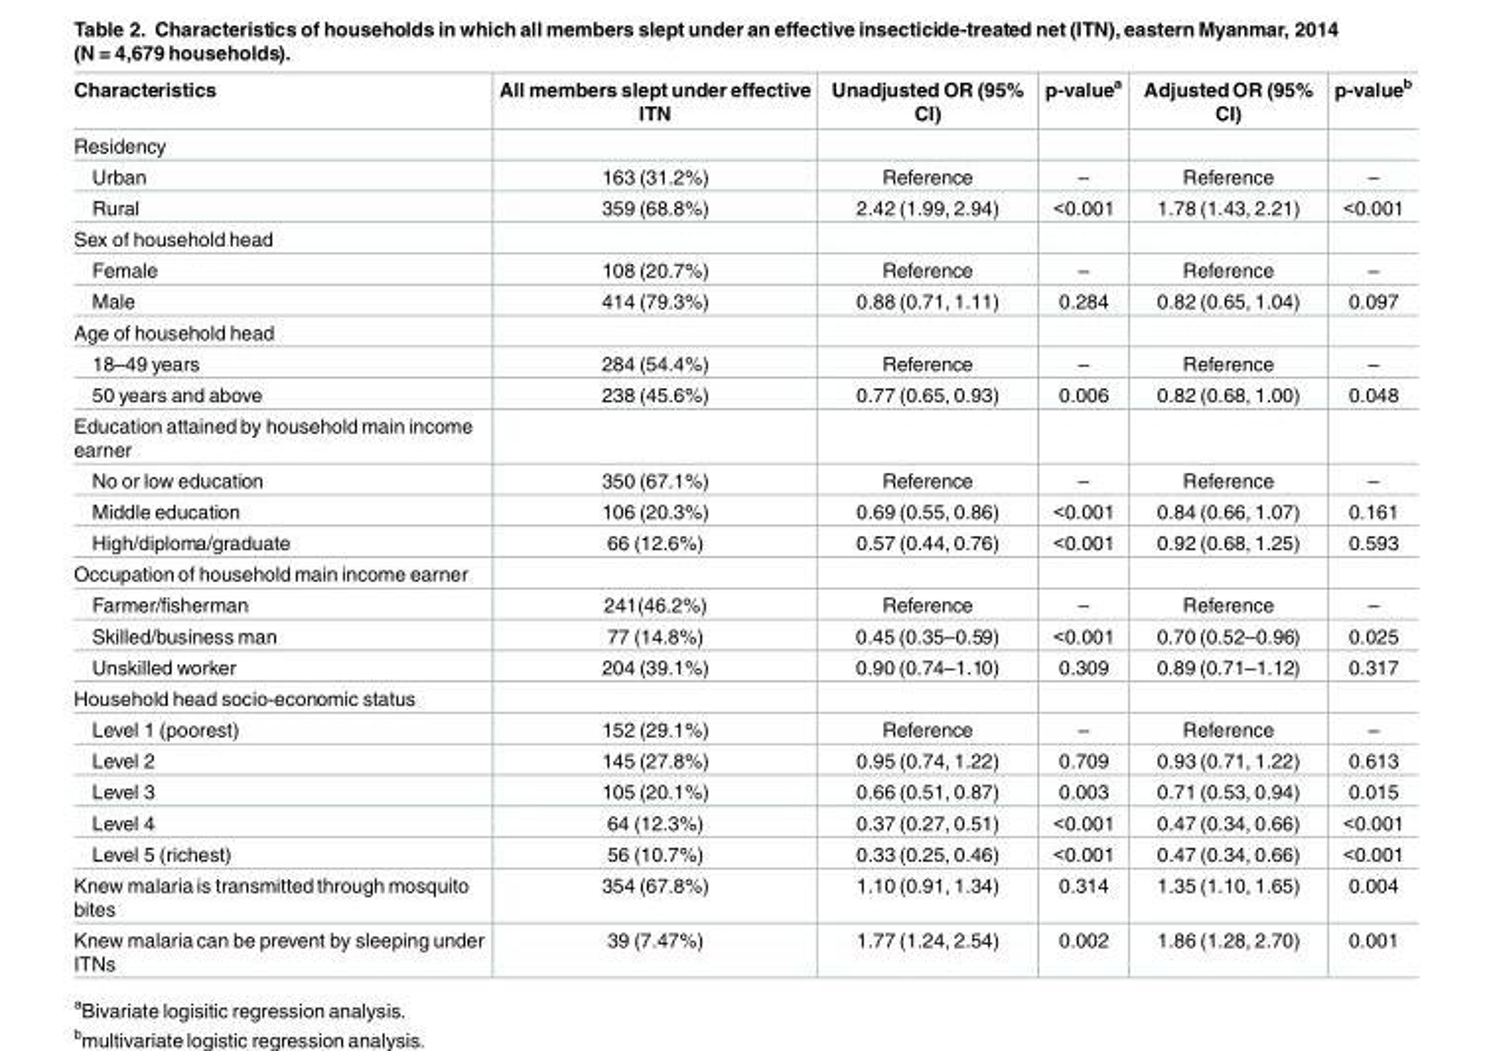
<table><thead><tr><td>Characteristics</td><td>All members slept under effective ITN</td><td>Unadjusted OR (95% CI)</td><td>p-value<sup>a</sup></td><td>Adjusted OR (95% CI)</td><td>p-value<sup>b</sup></td></tr></thead><tbody><tr><td colspan="6">Residency</td></tr><tr><td>Urban</td><td>163 (31.2%)</td><td>Reference</td><td>–</td><td>Reference</td><td>–</td></tr><tr><td>Rural</td><td>359 (68.8%)</td><td>2.42 (1.99, 2.94)</td><td>&lt;0.001</td><td>1.78 (1.43, 2.21)</td><td>&lt;0.001</td></tr><tr><td colspan="6">Sex of household head</td></tr><tr><td>Female</td><td>108 (20.7%)</td><td>Reference</td><td>–</td><td>Reference</td><td>–</td></tr><tr><td>Male</td><td>414 (79.3%)</td><td>0.88 (0.71, 1.11)</td><td>0.284</td><td>0.82 (0.65, 1.04)</td><td>0.097</td></tr><tr><td colspan="6">Age of household head</td></tr><tr><td>18–49 years</td><td>284 (54.4%)</td><td>Reference</td><td>–</td><td>Reference</td><td>–</td></tr><tr><td>50 years and above</td><td>238 (45.6%)</td><td>0.77 (0.65, 0.93)</td><td>0.006</td><td>0.82 (0.68, 1.00)</td><td>0.048</td></tr><tr><td colspan="6">Education attained by household main income earner</td></tr><tr><td>No or low education</td><td>350 (67.1%)</td><td>Reference</td><td>–</td><td>Reference</td><td>–</td></tr><tr><td>Middle education</td><td>106 (20.3%)</td><td>0.69 (0.55, 0.86)</td><td>&lt;0.001</td><td>0.84 (0.66, 1.07)</td><td>0.161</td></tr><tr><td>High/diploma/graduate</td><td>66 (12.6%)</td><td>0.57 (0.44, 0.76)</td><td>&lt;0.001</td><td>0.92 (0.68, 1.25)</td><td>0.593</td></tr><tr><td colspan="6">Occupation of household main income earner</td></tr><tr><td>Farmer/fisherman</td><td>241(46.2%)</td><td>Reference</td><td>–</td><td>Reference</td><td>–</td></tr><tr><td>Skilled/business man</td><td>77 (14.8%)</td><td>0.45 (0.35–0.59)</td><td>&lt;0.001</td><td>0.70 (0.52–0.96)</td><td>0.025</td></tr><tr><td>Unskilled worker</td><td>204 (39.1%)</td><td>0.90 (0.74–1.10)</td><td>0.309</td><td>0.89 (0.71–1.12)</td><td>0.317</td></tr><tr><td colspan="6">Household head socio-economic status</td></tr><tr><td>Level 1 (poorest)</td><td>152 (29.1%)</td><td>Reference</td><td>–</td><td>Reference</td><td>–</td></tr><tr><td>Level 2</td><td>145 (27.8%)</td><td>0.95 (0.74, 1.22)</td><td>0.709</td><td>0.93 (0.71, 1.22)</td><td>0.613</td></tr><tr><td>Level 3</td><td>105 (20.1%)</td><td>0.66 (0.51, 0.87)</td><td>0.003</td><td>0.71 (0.53, 0.94)</td><td>0.015</td></tr><tr><td>Level 4</td><td>64 (12.3%)</td><td>0.37 (0.27, 0.51)</td><td>&lt;0.001</td><td>0.47 (0.34, 0.66)</td><td>&lt;0.001</td></tr><tr><td>Level 5 (richest)</td><td>56 (10.7%)</td><td>0.33 (0.25, 0.46)</td><td>&lt;0.001</td><td>0.47 (0.34, 0.66)</td><td>&lt;0.001</td></tr><tr><td>Knew malaria is transmitted through mosquito bites</td><td>354 (67.8%)</td><td>1.10 (0.91, 1.34)</td><td>0.314</td><td>1.35 (1.10, 1.65)</td><td>0.004</td></tr><tr><td>Knew malaria can be prevent by sleeping under ITNs</td><td>39 (7.47%)</td><td>1.77 (1.24, 2.54)</td><td>0.002</td><td>1.86 (1.28, 2.70)</td><td>0.001</td></tr></tbody></table>